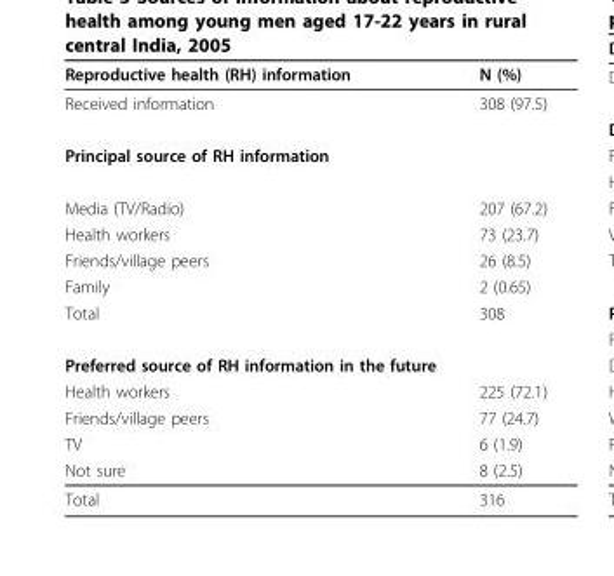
<table><thead><tr><td>Reproductive health (RH) information</td><td>N (%)</td></tr></thead><tbody><tr><td>Received information</td><td>308 (97.5)</td></tr><tr><td colspan="2">Principal source of RH information</td></tr><tr><td>Media (TV/Radio)</td><td>207 (67.2)</td></tr><tr><td>Health workers</td><td>73 (23.7)</td></tr><tr><td>Friends/village peers</td><td>26 (8.5)</td></tr><tr><td>Family</td><td>2 (0.65)</td></tr><tr><td>Total</td><td>308</td></tr><tr><td colspan="2">Preferred source of RH information in the future</td></tr><tr><td>Health workers</td><td>225 (72.1)</td></tr><tr><td>Friends/village peers</td><td>77 (24.7)</td></tr><tr><td>TV</td><td>6 (1.9)</td></tr><tr><td>Not sure</td><td>8 (2.5)</td></tr><tr><td>Total</td><td>316</td></tr></tbody></table>